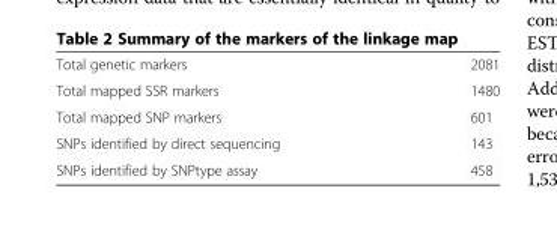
<table><tbody><tr><td>Total genetic markers</td><td>2081</td></tr><tr><td>Total mapped SSR markers</td><td>1480</td></tr><tr><td>Total mapped SNP markers</td><td>601</td></tr><tr><td>SNPs identified by direct sequencing</td><td>143</td></tr><tr><td>SNPs identified by SNPtype assay</td><td>458</td></tr></tbody></table>